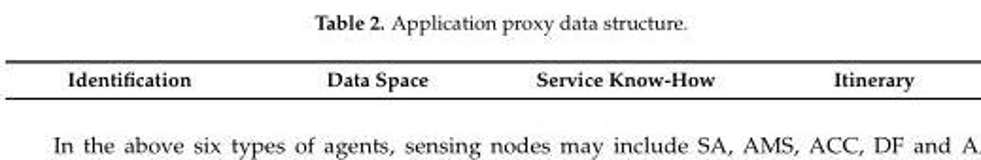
<table><tbody><tr><td>Identification</td><td>Data Space</td><td>Service Know-How</td><td>Itinerary</td></tr></tbody></table>